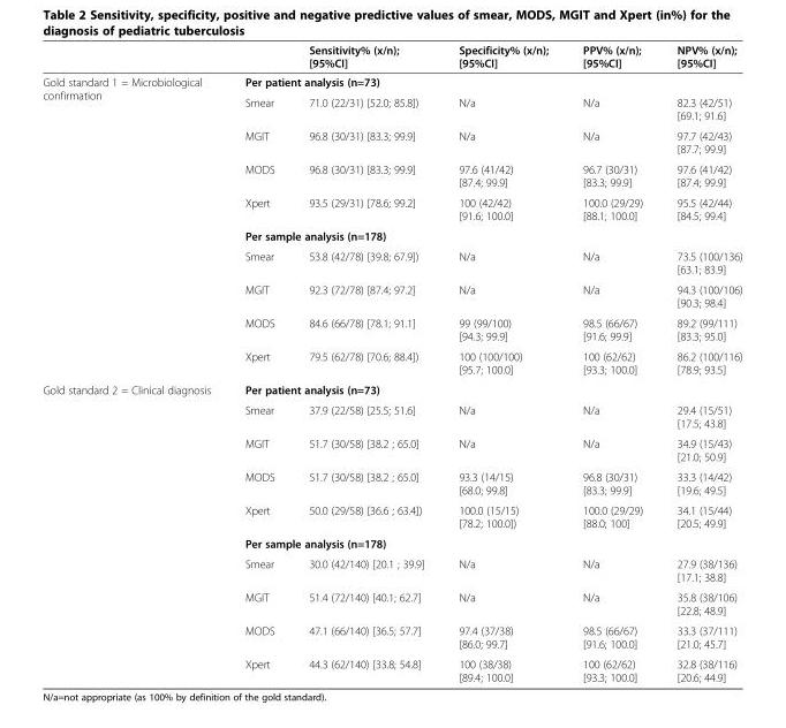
<table><thead><tr><td></td><td></td><td>Sensitivity% (x/n); [95%CI]</td><td>Specificity% (x/n); [95%CI]</td><td>PPV% (x/n); [95%CI]</td><td>NPV% (x/n); [95%CI]</td></tr></thead><tbody><tr><td rowspan="10">Gold standard 1 = Microbiological confirmation</td><td colspan="5">Per patient analysis (n=73)</td></tr><tr><td>Smear</td><td>71.0 (22/31) [52.0; 85.8])</td><td>N/a</td><td>N/a</td><td>82.3 (42/51) [69.1; 91.6]</td></tr><tr><td>MGIT</td><td>96.8 (30/31) [83.3; 99.9]</td><td>N/a</td><td>N/a</td><td>97.7 (42/43) [87.7; 99.9]</td></tr><tr><td>MODS</td><td>96.8 (30/31) [83.3; 99.9]</td><td>97.6 (41/42) [87.4; 99.9]</td><td>96.7 (30/31) [83.3; 99.9]</td><td>97.6 (41/42) [87.4; 99.9]</td></tr><tr><td>Xpert</td><td>93.5 (29/31) [78.6; 99.2]</td><td>100 (42/42) [91.6; 100.0]</td><td>100.0 (29/29) [88.1; 100.0]</td><td>95.5 (42/44) [84.5; 99.4]</td></tr><tr><td colspan="5">Per sample analysis (n=178)</td></tr><tr><td>Smear</td><td>53.8 (42/78) [39.8; 67.9])</td><td>N/a</td><td>N/a</td><td>73.5 (100/136) [63.1; 83.9]</td></tr><tr><td>MGIT</td><td>92.3 (72/78) [87.4; 97.2]</td><td>N/a</td><td>N/a</td><td>94.3 (100/106) [90.3; 98.4]</td></tr><tr><td>MODS</td><td>84.6 (66/78) [78.1; 91.1]</td><td>99 (99/100) [94.3; 99.9]</td><td>98.5 (66/67) [91.6; 99.9]</td><td>89.2 (99/111) [83.3; 95.0]</td></tr><tr><td>Xpert</td><td>79.5 (62/78) [70.6; 88.4])</td><td>100 (100/100) [95.7; 100.0]</td><td>100 (62/62) [93.3; 100.0]</td><td>86.2 (100/116) [78.9; 93.5]</td></tr><tr><td rowspan="10">Gold standard 2 = Clinical diagnosis</td><td colspan="5">Per patient analysis (n=73)</td></tr><tr><td>Smear</td><td>37.9 (22/58) [25.5; 51.6]</td><td>N/a</td><td>N/a</td><td>29.4 (15/51) [17.5; 43.8]</td></tr><tr><td>MGIT</td><td>51.7 (30/58) [38.2 ; 65.0]</td><td>N/a</td><td>N/a</td><td>34.9 (15/43) [21.0; 50.9]</td></tr><tr><td>MODS</td><td>51.7 (30/58) [38.2 ; 65.0]</td><td>93.3 (14/15) [68.0; 99.8]</td><td>96.8 (30/31) [83.3; 99.9]</td><td>33.3 (14/42) [19.6; 49.5]</td></tr><tr><td>Xpert</td><td>50.0 (29/58) [36.6 ; 63.4])</td><td>100.0 (15/15) [78.2; 100.0])</td><td>100.0 (29/29) [88.0; 100]</td><td>34.1 (15/44) [20.5; 49.9]</td></tr><tr><td colspan="5">Per sample analysis (n=178)</td></tr><tr><td>Smear</td><td>30.0 (42/140) [20.1 ; 39.9]</td><td>N/a</td><td>N/a</td><td>27.9 (38/136) [17.1; 38.8]</td></tr><tr><td>MGIT</td><td>51.4 (72/140) [40.1; 62.7]</td><td>N/a</td><td>N/a</td><td>35.8 (38/106) [22.8; 48.9]</td></tr><tr><td>MODS</td><td>47.1 (66/140) [36.5; 57.7]</td><td>97.4 (37/38) [86.0; 99.7]</td><td>98.5 (66/67) [91.6; 100.0]</td><td>33.3 (37/111) [21.0; 45.7]</td></tr><tr><td>Xpert</td><td>44.3 (62/140) [33.8; 54.8]</td><td>100 (38/38) [89.4; 100.0]</td><td>100 (62/62) [93.3; 100.0]</td><td>32.8 (38/116) [20.6; 44.9]</td></tr></tbody></table>